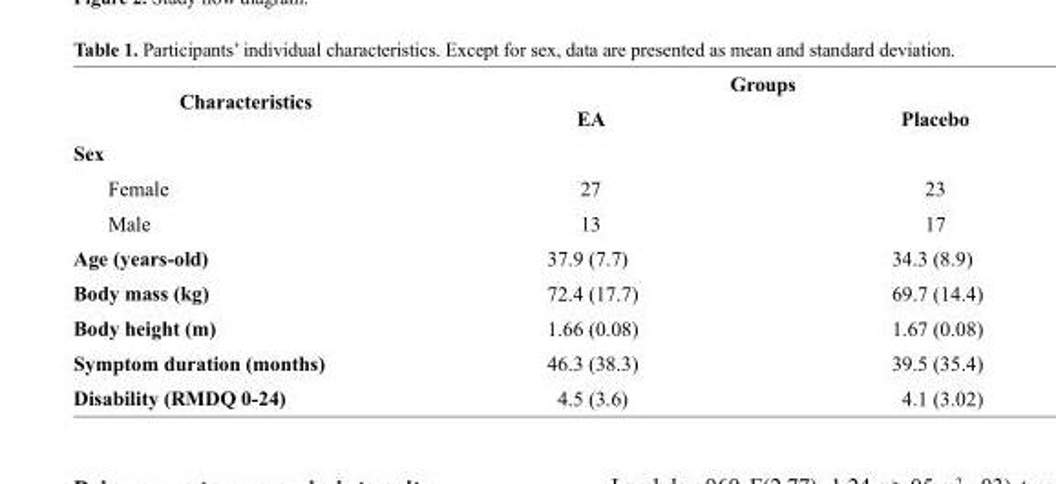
<table><thead><tr><td rowspan="2">Characteristics</td><td colspan="2">Groups</td></tr><tr><td>EA</td><td>Placebo</td></tr></thead><tbody><tr><td colspan="3">Sex</td></tr><tr><td>Female</td><td>27</td><td>23</td></tr><tr><td>Male</td><td>13</td><td>17</td></tr><tr><td>Age (years-old)</td><td>37.9 (7.7)</td><td>34.3 (8.9)</td></tr><tr><td>Body mass (kg)</td><td>72.4 (17.7)</td><td>69.7 (14.4)</td></tr><tr><td>Body height (m)</td><td>1.66 (0.08)</td><td>1.67 (0.08)</td></tr><tr><td>Symptom duration (months)</td><td>46.3 (38.3)</td><td>39.5 (35.4)</td></tr><tr><td>Disability (RMDQ 0-24)</td><td>4.5 (3.6)</td><td>4.1 (3.02)</td></tr></tbody></table>